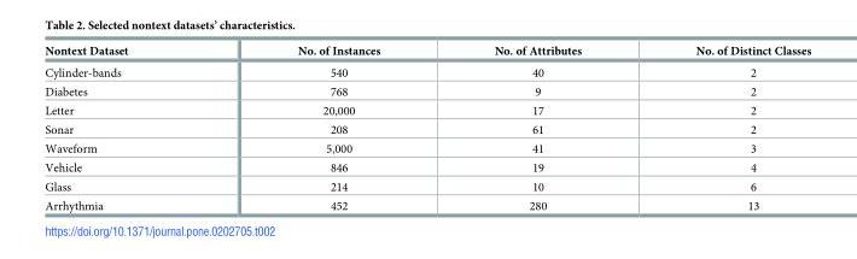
<table><thead><tr><td>Nontext Dataset</td><td>No. of Instances</td><td>No. of Attributes</td><td>No. of Distinct Classes</td></tr></thead><tbody><tr><td>Cylinder-bands</td><td>540</td><td>40</td><td>2</td></tr><tr><td>Diabetes</td><td>768</td><td>9</td><td>2</td></tr><tr><td>Letter</td><td>20,000</td><td>17</td><td>2</td></tr><tr><td>Sonar</td><td>208</td><td>61</td><td>2</td></tr><tr><td>Waveform</td><td>5,000</td><td>41</td><td>3</td></tr><tr><td>Vehicle</td><td>846</td><td>19</td><td>4</td></tr><tr><td>Glass</td><td>214</td><td>10</td><td>6</td></tr><tr><td>Arrhythmia</td><td>452</td><td>280</td><td>13</td></tr></tbody></table>